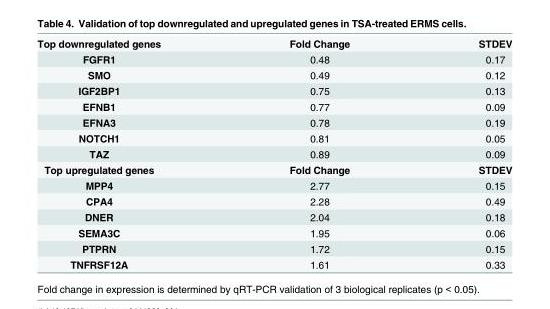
<table><tbody><tr><td>Top downregulated genes</td><td>Fold Change</td><td>STDEV</td></tr><tr><td>FGFR1</td><td>0.48</td><td>0.17</td></tr><tr><td>SMO</td><td>0.49</td><td>0.12</td></tr><tr><td>IGF2BP1</td><td>0.75</td><td>0.13</td></tr><tr><td>EFNB1</td><td>0.77</td><td>0.09</td></tr><tr><td>EFNA3</td><td>0.78</td><td>0.19</td></tr><tr><td>NOTCH1</td><td>0.81</td><td>0.05</td></tr><tr><td>TAZ</td><td>0.89</td><td>0.09</td></tr><tr><td>Top upregulated genes</td><td>Fold Change</td><td>STDEV</td></tr><tr><td>MPP4</td><td>2.77</td><td>0.15</td></tr><tr><td>CPA4</td><td>2.28</td><td>0.49</td></tr><tr><td>DNER</td><td>2.04</td><td>0.18</td></tr><tr><td>SEMA3C</td><td>1.95</td><td>0.06</td></tr><tr><td>PTPRN</td><td>1.72</td><td>0.15</td></tr><tr><td>TNFRSF12A</td><td>1.61</td><td>0.33</td></tr></tbody></table>